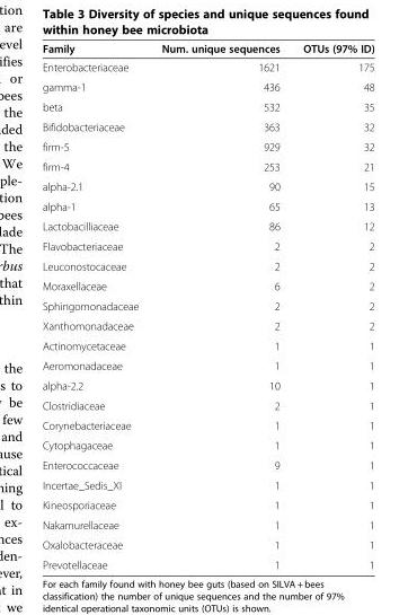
<table><thead><tr><td>Family</td><td>Num. unique sequences</td><td>OTUs (97% ID)</td></tr></thead><tbody><tr><td>Enterobacteriaceae</td><td>1621</td><td>175</td></tr><tr><td>gamma-1</td><td>436</td><td>48</td></tr><tr><td>beta</td><td>532</td><td>35</td></tr><tr><td>Bifidobacteriaceae</td><td>363</td><td>32</td></tr><tr><td>firm-5</td><td>929</td><td>32</td></tr><tr><td>firm-4</td><td>253</td><td>21</td></tr><tr><td>alpha-2.1</td><td>90</td><td>15</td></tr><tr><td>alpha-1</td><td>65</td><td>13</td></tr><tr><td>Lactobacilliaceae</td><td>86</td><td>12</td></tr><tr><td>Flavobacteriaceae</td><td>2</td><td>2</td></tr><tr><td>Leuconostocaceae</td><td>2</td><td>2</td></tr><tr><td>Moraxellaceae</td><td>6</td><td>2</td></tr><tr><td>Sphingomonadaceae</td><td>2</td><td>2</td></tr><tr><td>Xanthomonadaceae</td><td>2</td><td>2</td></tr><tr><td>Actinomycetaceae</td><td>1</td><td>1</td></tr><tr><td>Aeromonadaceae</td><td>1</td><td>1</td></tr><tr><td>alpha-2.2</td><td>10</td><td>1</td></tr><tr><td>Clostridiaceae</td><td>2</td><td>1</td></tr><tr><td>Corynebacteriaceae</td><td>1</td><td>1</td></tr><tr><td>Cytophagaceae</td><td>1</td><td>1</td></tr><tr><td>Enterococcaceae</td><td>9</td><td>1</td></tr><tr><td>Incertae_Sedis_XI</td><td>1</td><td>1</td></tr><tr><td>Kineosporiaceae</td><td>1</td><td>1</td></tr><tr><td>Nakamurellaceae</td><td>1</td><td>1</td></tr><tr><td>Oxalobacteraceae</td><td>1</td><td>1</td></tr><tr><td>Prevotellaceae</td><td>1</td><td>1</td></tr></tbody></table>